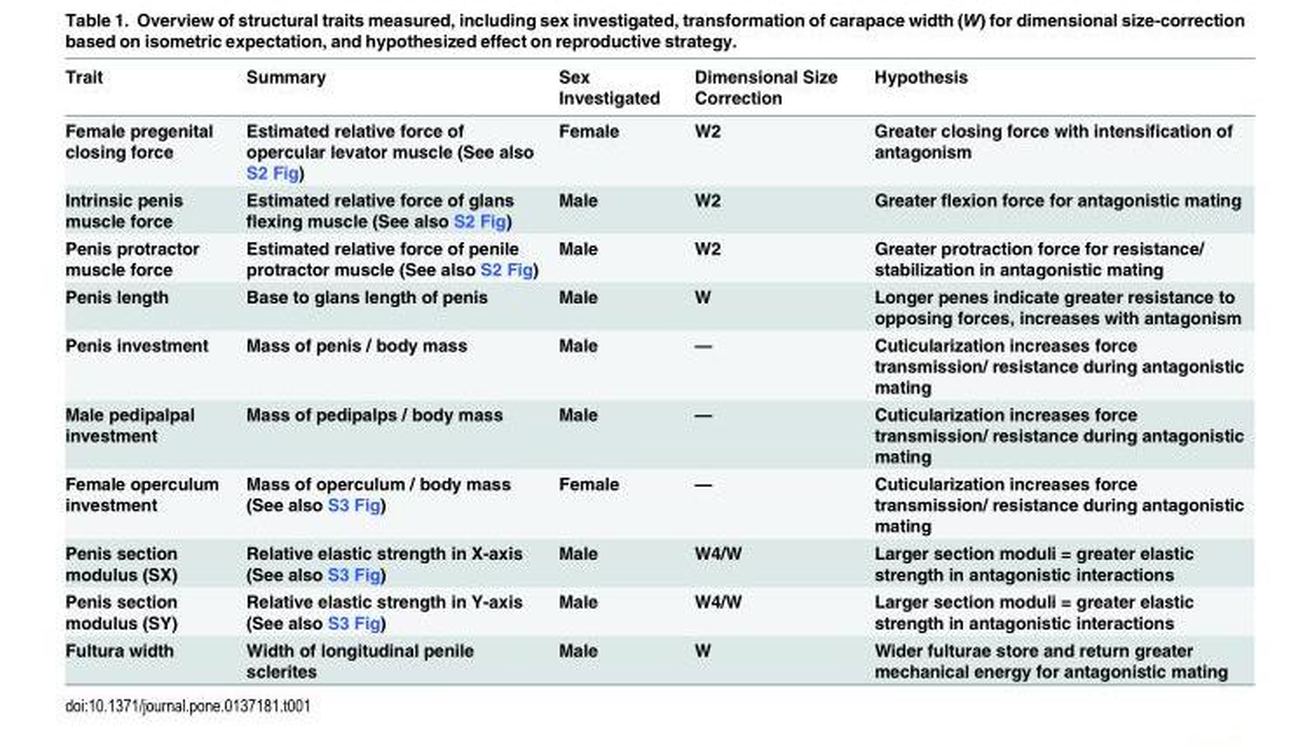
<table><thead><tr><td>Trait</td><td>Summary</td><td>Sex Investigated</td><td>Dimensional Size Correction</td><td>Hypothesis</td></tr></thead><tbody><tr><td>Female pregenital closing force</td><td>Estimated relative force of opercular levator muscle (See also S2 Fig)</td><td>Female</td><td>W2</td><td>Greater closing force with intensification of antagonism</td></tr><tr><td>Intrinsic penis muscle force</td><td>Estimated relative force of glans flexing muscle (See also S2 Fig)</td><td>Male</td><td>W2</td><td>Greater flexion force for antagonistic mating</td></tr><tr><td>Penis protractor muscle force</td><td>Estimated relative force of penile protractor muscle (See also S2 Fig)</td><td>Male</td><td>W2</td><td>Greater protraction force for resistance/ stabilization in antagonistic mating</td></tr><tr><td>Penis length</td><td>Base to glans length of penis</td><td>Male</td><td>W</td><td>Longer penes indicate greater resistance to opposing forces, increases with antagonism</td></tr><tr><td>Penis investment</td><td>Mass of penis / body mass</td><td>Male</td><td>—</td><td>Cuticularization increases force transmission/ resistance during antagonistic mating</td></tr><tr><td>Male pedipalpal investment</td><td>Mass of pedipalps / body mass</td><td>Male</td><td>—</td><td>Cuticularization increases force transmission/ resistance during antagonistic mating</td></tr><tr><td>Female operculum investment</td><td>Mass of operculum / body mass (See also S3 Fig)</td><td>Female</td><td>—</td><td>Cuticularization increases force transmission/ resistance during antagonistic mating</td></tr><tr><td>Penis section modulus (SX)</td><td>Relative elastic strength in X-axis (See also S3 Fig)</td><td>Male</td><td>W4/W</td><td>Larger section moduli = greater elastic strength in antagonistic interactions</td></tr><tr><td>Penis section modulus (SY)</td><td>Relative elastic strength in Y-axis (See also S3 Fig)</td><td>Male</td><td>W4/W</td><td>Larger section moduli = greater elastic strength in antagonistic interactions</td></tr><tr><td>Fultura width</td><td>Width of longitudinal penile sclerites</td><td>Male</td><td>W</td><td>Wider fulturae store and return greater mechanical energy for antagonistic mating</td></tr></tbody></table>